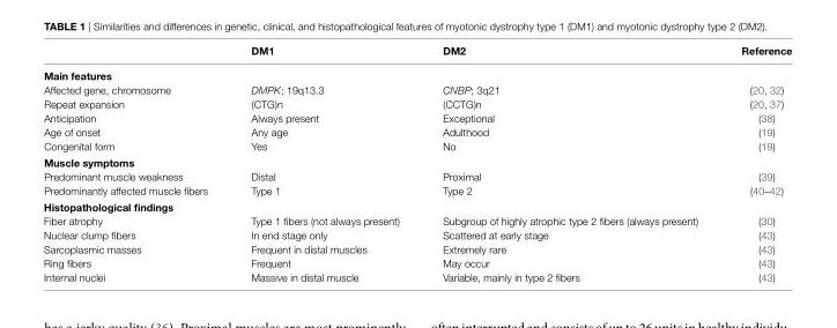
<table><thead><tr><td></td><td>DM1</td><td>DM2</td><td>Reference</td></tr></thead><tbody><tr><td colspan="4">Main features</td></tr><tr><td>Affected gene, chromosome</td><td>DMPK; 19q13.3</td><td>CNBP; 3q21</td><td>(20, 32)</td></tr><tr><td>Repeat expansion</td><td>(CTG)n</td><td>(CCTG)n</td><td>(20, 37)</td></tr><tr><td>Anticipation</td><td>Always present</td><td>Exceptional</td><td>(38)</td></tr><tr><td>Age of onset</td><td>Any age</td><td>Adulthood</td><td>(19)</td></tr><tr><td>Congenital form</td><td>Yes</td><td>No</td><td>(19)</td></tr><tr><td colspan="4">Muscle symptoms</td></tr><tr><td>Predominant muscle weakness</td><td>Distal</td><td>Proximal</td><td>(39)</td></tr><tr><td>Predominantly affected muscle fibers</td><td>Type 1</td><td>Type 2</td><td>(40–42)</td></tr><tr><td colspan="4">Histopathological findings</td></tr><tr><td>Fiber atrophy</td><td>Type 1 fibers (not always present)</td><td>Subgroup of highly atrophic type 2 fibers (always present)</td><td>(30)</td></tr><tr><td>Nuclear clump fibers</td><td>In end stage only</td><td>Scattered at early stage</td><td>(43)</td></tr><tr><td>Sarcoplasmic masses</td><td>Frequent in distal muscles</td><td>Extremely rare</td><td>(43)</td></tr><tr><td>Ring fibers</td><td>Frequent</td><td>May occur</td><td>(43)</td></tr><tr><td>Internal nuclei</td><td>Massive in distal muscle</td><td>Variable, mainly in type 2 fibers</td><td>(43)</td></tr></tbody></table>